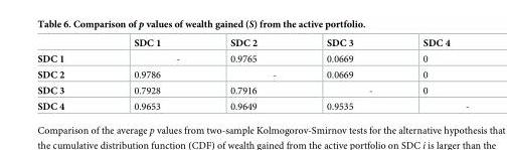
<table><thead><tr><td></td><td>SDC 1</td><td>SDC 2</td><td>SDC 3</td><td>SDC 4</td></tr></thead><tbody><tr><td>SDC 1</td><td>-</td><td>0.9765</td><td>0.0669</td><td>0</td></tr><tr><td>SDC 2</td><td>0.9786</td><td>-</td><td>0.0669</td><td>0</td></tr><tr><td>SDC 3</td><td>0.7928</td><td>0.7916</td><td>-</td><td>0</td></tr><tr><td>SDC 4</td><td>0.9653</td><td>0.9649</td><td>0.9535</td><td>-</td></tr></tbody></table>